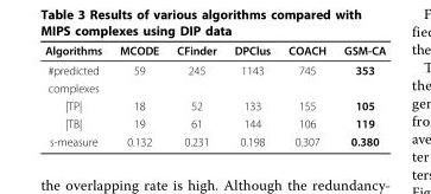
<table><thead><tr><td>Algorithms</td><td>MCODE</td><td>CFinder</td><td>DPClus</td><td>COACH</td><td>GSM-CA</td></tr></thead><tbody><tr><td>#predicted</td><td>59</td><td>245</td><td>1143</td><td>745</td><td>353</td></tr><tr><td colspan="6">complexes</td></tr><tr><td>|TP|</td><td>18</td><td>52</td><td>133</td><td>155</td><td>105</td></tr><tr><td>|TB|</td><td>19</td><td>61</td><td>144</td><td>106</td><td>119</td></tr><tr><td>s-measure</td><td>0.132</td><td>0.231</td><td>0.198</td><td>0.307</td><td>0.380</td></tr></tbody></table>